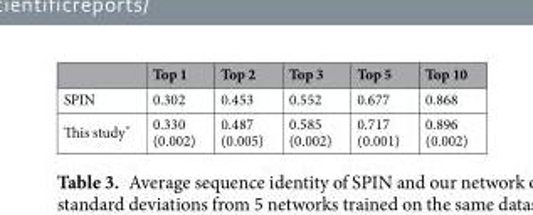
<table><thead><tr><td></td><td>Top 1</td><td>Top 2</td><td>Top 3</td><td>Top 5</td><td>Top 10</td></tr></thead><tbody><tr><td>SPIN</td><td>0.302</td><td>0.453</td><td>0.552</td><td>0.677</td><td>0.868</td></tr><tr><td>This study*</td><td>0.330 (0.002)</td><td>0.487 (0.005)</td><td>0.585 (0.002)</td><td>0.717 (0.001)</td><td>0.896 (0.002)</td></tr></tbody></table>